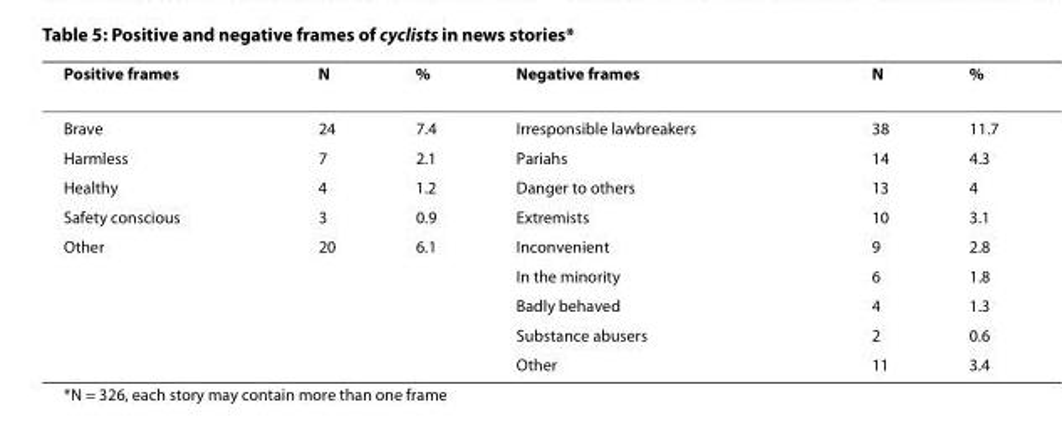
<table><thead><tr><td>Positive frames</td><td>N</td><td>%</td><td>Negative frames</td><td>N</td><td>%</td></tr></thead><tbody><tr><td>Brave</td><td>24</td><td>7.4</td><td>Irresponsible lawbreakers</td><td>38</td><td>11.7</td></tr><tr><td>Harmless</td><td>7</td><td>2.1</td><td>Pariahs</td><td>14</td><td>4.3</td></tr><tr><td>Healthy</td><td>4</td><td>1.2</td><td>Danger to others</td><td>13</td><td>4</td></tr><tr><td>Safety conscious</td><td>3</td><td>0.9</td><td>Extremists</td><td>10</td><td>3.1</td></tr><tr><td rowspan="5">Other</td><td>20</td><td>6.1</td><td>Inconvenient</td><td>9</td><td>2.8</td></tr><tr><td></td><td></td><td>In the minority</td><td>6</td><td>1.8</td></tr><tr><td></td><td></td><td>Badly behaved</td><td>4</td><td>1.3</td></tr><tr><td></td><td></td><td>Substance abusers</td><td>2</td><td>0.6</td></tr><tr><td></td><td></td><td>Other</td><td>11</td><td>3.4</td></tr></tbody></table>